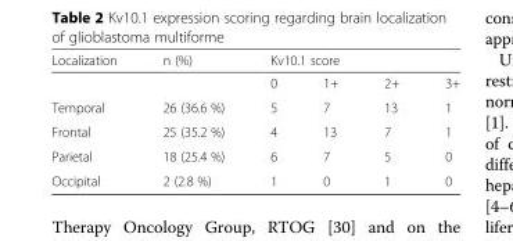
<table><thead><tr><td rowspan="2">Localization</td><td rowspan="2">n (%)</td><td colspan="4">Kv10.1 score</td></tr><tr><td>0</td><td>1+</td><td>2+</td><td>3+</td></tr></thead><tbody><tr><td>Temporal</td><td>26 (36.6 %)</td><td>5</td><td>7</td><td>13</td><td>1</td></tr><tr><td>Frontal</td><td>25 (35.2 %)</td><td>4</td><td>13</td><td>7</td><td>1</td></tr><tr><td>Parietal</td><td>18 (25.4 %)</td><td>6</td><td>7</td><td>5</td><td>0</td></tr><tr><td>Occipital</td><td>2 (2.8 %)</td><td>1</td><td>0</td><td>1</td><td>0</td></tr></tbody></table>